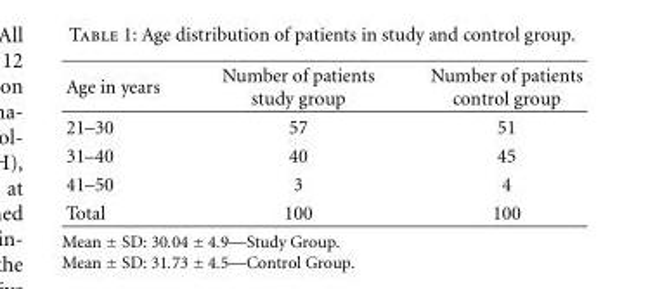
<table><thead><tr><td>Age in years</td><td>Number of patients study group</td><td>Number of patients control group</td></tr></thead><tbody><tr><td>21–30</td><td>57</td><td>51</td></tr><tr><td>31–40</td><td>40</td><td>45</td></tr><tr><td>41–50</td><td>3</td><td>4</td></tr><tr><td>Total</td><td>100</td><td>100</td></tr></tbody></table>